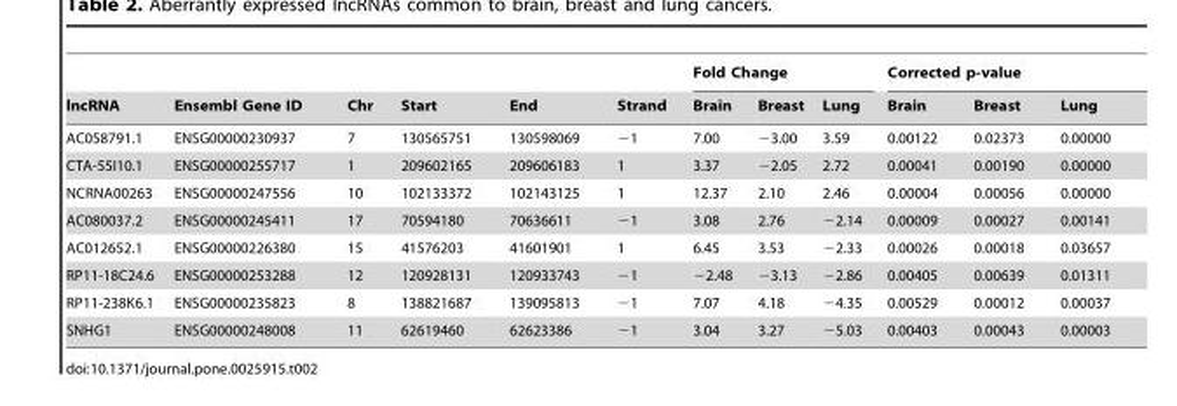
<table><thead><tr><td rowspan="2">lncRNA</td><td rowspan="2">Ensembl Gene ID</td><td rowspan="2">Chr</td><td rowspan="2">Start</td><td rowspan="2">End</td><td rowspan="2">Strand</td><td colspan="3">Fold Change</td><td colspan="3">Corrected p-value</td></tr><tr><td>Brain</td><td>Breast</td><td>Lung</td><td>Brain</td><td>Breast</td><td>Lung</td></tr></thead><tbody><tr><td>AC058791.1</td><td>ENSG00000230937</td><td>7</td><td>130565751</td><td>130598069</td><td>−1</td><td>7.00</td><td>−3.00</td><td>3.59</td><td>0.00122</td><td>0.02373</td><td>0.00000</td></tr><tr><td>CTA-55I10.1</td><td>ENSG00000255717</td><td>1</td><td>209602165</td><td>209606183</td><td>1</td><td>3.37</td><td>−2.05</td><td>2.72</td><td>0.00041</td><td>0.00190</td><td>0.00000</td></tr><tr><td>NCRNA00263</td><td>ENSG00000247556</td><td>10</td><td>102133372</td><td>102143125</td><td>1</td><td>12.37</td><td>2.10</td><td>2.46</td><td>0.00004</td><td>0.00056</td><td>0.00000</td></tr><tr><td>AC080037.2</td><td>ENSG00000245411</td><td>17</td><td>70594180</td><td>70636611</td><td>−1</td><td>3.08</td><td>2.76</td><td>−2.14</td><td>0.00009</td><td>0.00027</td><td>0.00141</td></tr><tr><td>AC012652.1</td><td>ENSG00000226380</td><td>15</td><td>41576203</td><td>41601901</td><td>1</td><td>6.45</td><td>3.53</td><td>−2.33</td><td>0.00026</td><td>0.00018</td><td>0.03657</td></tr><tr><td>RP11-18C24.6</td><td>ENSG00000253288</td><td>12</td><td>120928131</td><td>120933743</td><td>−1</td><td>−2.48</td><td>−3.13</td><td>−2.86</td><td>0.00405</td><td>0.00639</td><td>0.01311</td></tr><tr><td>RP11-238K6.1</td><td>ENSG00000235823</td><td>8</td><td>138821687</td><td>139095813</td><td>−1</td><td>7.07</td><td>4.18</td><td>−4.35</td><td>0.00529</td><td>0.00012</td><td>0.00037</td></tr><tr><td>SNHG1</td><td>ENSG00000248008</td><td>11</td><td>62619460</td><td>62623386</td><td>−1</td><td>3.04</td><td>3.27</td><td>−5.03</td><td>0.00403</td><td>0.00043</td><td>0.00003</td></tr></tbody></table>